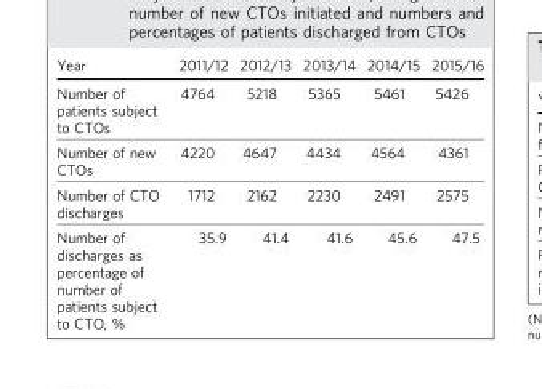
<table><thead><tr><td>Year</td><td>2011/12</td><td>2012/13</td><td>2013/14</td><td>2014/15</td><td>2015/16</td></tr></thead><tbody><tr><td>Number of patients subject to CTOs</td><td>4764</td><td>5218</td><td>5365</td><td>5461</td><td>5426</td></tr><tr><td>Number of new CTOs</td><td>4220</td><td>4647</td><td>4434</td><td>4564</td><td>4361</td></tr><tr><td>Number of CTO discharges</td><td>1712</td><td>2162</td><td>2230</td><td>2491</td><td>2575</td></tr><tr><td>Number of discharges as percentage of number of patients subject to CTO, %</td><td>35.9</td><td>41.4</td><td>41.6</td><td>45.6</td><td>47.5</td></tr></tbody></table>